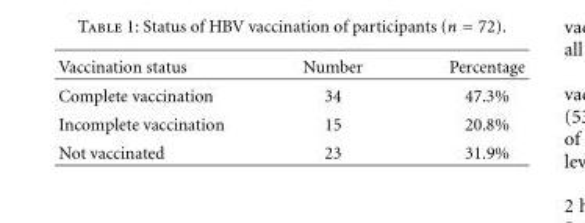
<table><thead><tr><td>Vaccination status</td><td>Number</td><td>Percentage</td></tr></thead><tbody><tr><td>Complete vaccination</td><td>34</td><td>47.3%</td></tr><tr><td>Incomplete vaccination</td><td>15</td><td>20.8%</td></tr><tr><td>Not vaccinated</td><td>23</td><td>31.9%</td></tr></tbody></table>